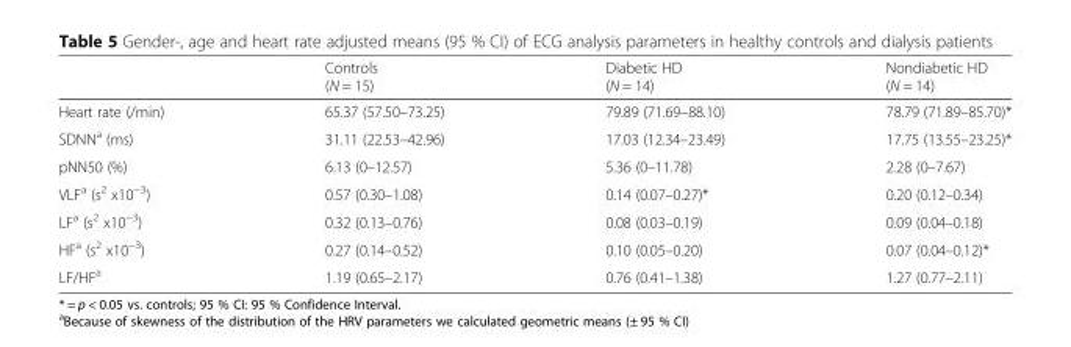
<table><thead><tr><td></td><td>Controls (N = 15)</td><td>Diabetic HD (N = 14)</td><td>Nondiabetic HD (N = 14)</td></tr></thead><tbody><tr><td>Heart rate (/min)</td><td>65.37 (57.50–73.25)</td><td>79.89 (71.69–88.10)</td><td>78.79 (71.89–85.70)*</td></tr><tr><td>SDNN<sup>a</sup> (ms)</td><td>31.11 (22.53–42.96)</td><td>17.03 (12.34–23.49)</td><td>17.75 (13.55–23.25)*</td></tr><tr><td>pNN50 (%)</td><td>6.13 (0–12.57)</td><td>5.36 (0–11.78)</td><td>2.28 (0–7.67)</td></tr><tr><td>VLF<sup>a</sup> (s<sup>2</sup> x10<sup>−3</sup>)</td><td>0.57 (0.30–1.08)</td><td>0.14 (0.07–0.27)*</td><td>0.20 (0.12–0.34)</td></tr><tr><td>LF<sup>a</sup> (s<sup>2</sup> x10<sup>−3</sup>)</td><td>0.32 (0.13–0.76)</td><td>0.08 (0.03–0.19)</td><td>0.09 (0.04–0.18)</td></tr><tr><td>HF<sup>a</sup> (s<sup>2</sup> x10<sup>−3</sup>)</td><td>0.27 (0.14–0.52)</td><td>0.10 (0.05–0.20)</td><td>0.07 (0.04–0.12)*</td></tr><tr><td>LF/HF<sup>a</sup></td><td>1.19 (0.65–2.17)</td><td>0.76 (0.41–1.38)</td><td>1.27 (0.77–2.11)</td></tr></tbody></table>